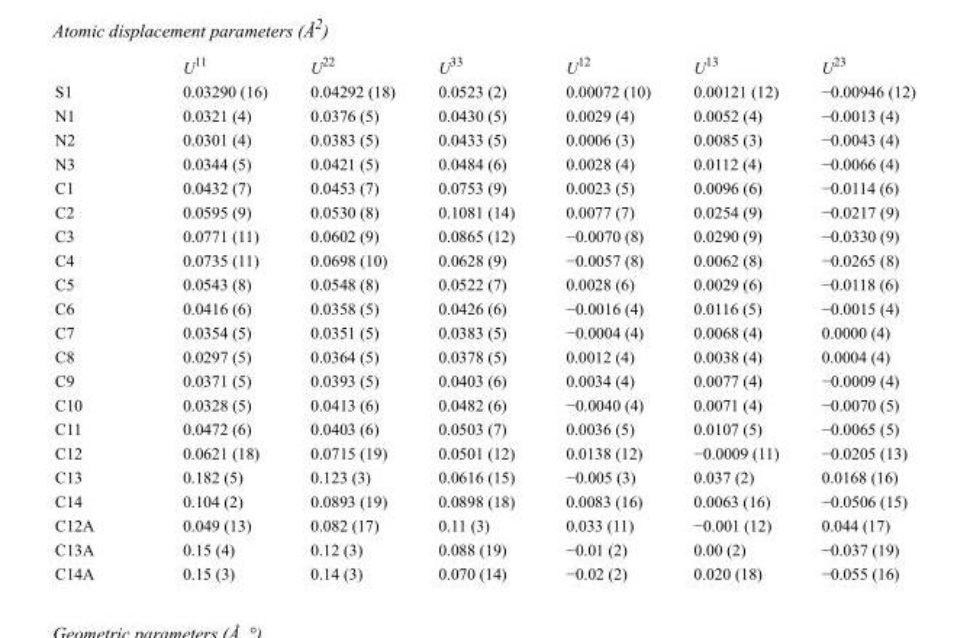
<table><thead><tr><td></td><td>U<sup>11</sup></td><td>U<sup>22</sup></td><td>U<sup>33</sup></td><td>U<sup>12</sup></td><td>U<sup>13</sup></td><td>U<sup>23</sup></td></tr></thead><tbody><tr><td>S1</td><td>0.03290 (16)</td><td>0.04292 (18)</td><td>0.0523 (2)</td><td>0.00072 (10)</td><td>0.00121 (12)</td><td>−0.00946 (12)</td></tr><tr><td>N1</td><td>0.0321 (4)</td><td>0.0376 (5)</td><td>0.0430 (5)</td><td>0.0029 (4)</td><td>0.0052 (4)</td><td>−0.0013 (4)</td></tr><tr><td>N2</td><td>0.0301 (4)</td><td>0.0383 (5)</td><td>0.0433 (5)</td><td>0.0006 (3)</td><td>0.0085 (3)</td><td>−0.0043 (4)</td></tr><tr><td>N3</td><td>0.0344 (5)</td><td>0.0421 (5)</td><td>0.0484 (6)</td><td>0.0028 (4)</td><td>0.0112 (4)</td><td>−0.0066 (4)</td></tr><tr><td>C1</td><td>0.0432 (7)</td><td>0.0453 (7)</td><td>0.0753 (9)</td><td>0.0023 (5)</td><td>0.0096 (6)</td><td>−0.0114 (6)</td></tr><tr><td>C2</td><td>0.0595 (9)</td><td>0.0530 (8)</td><td>0.1081 (14)</td><td>0.0077 (7)</td><td>0.0254 (9)</td><td>−0.0217 (9)</td></tr><tr><td>C3</td><td>0.0771 (11)</td><td>0.0602 (9)</td><td>0.0865 (12)</td><td>−0.0070 (8)</td><td>0.0290 (9)</td><td>−0.0330 (9)</td></tr><tr><td>C4</td><td>0.0735 (11)</td><td>0.0698 (10)</td><td>0.0628 (9)</td><td>−0.0057 (8)</td><td>0.0062 (8)</td><td>−0.0265 (8)</td></tr><tr><td>C5</td><td>0.0543 (8)</td><td>0.0548 (8)</td><td>0.0522 (7)</td><td>0.0028 (6)</td><td>0.0029 (6)</td><td>−0.0118 (6)</td></tr><tr><td>C6</td><td>0.0416 (6)</td><td>0.0358 (5)</td><td>0.0426 (6)</td><td>−0.0016 (4)</td><td>0.0116 (5)</td><td>−0.0015 (4)</td></tr><tr><td>C7</td><td>0.0354 (5)</td><td>0.0351 (5)</td><td>0.0383 (5)</td><td>−0.0004 (4)</td><td>0.0068 (4)</td><td>0.0000 (4)</td></tr><tr><td>C8</td><td>0.0297 (5)</td><td>0.0364 (5)</td><td>0.0378 (5)</td><td>0.0012 (4)</td><td>0.0038 (4)</td><td>0.0004 (4)</td></tr><tr><td>C9</td><td>0.0371 (5)</td><td>0.0393 (5)</td><td>0.0403 (6)</td><td>0.0034 (4)</td><td>0.0077 (4)</td><td>−0.0009 (4)</td></tr><tr><td>C10</td><td>0.0328 (5)</td><td>0.0413 (6)</td><td>0.0482 (6)</td><td>−0.0040 (4)</td><td>0.0071 (4)</td><td>−0.0070 (5)</td></tr><tr><td>C11</td><td>0.0472 (6)</td><td>0.0403 (6)</td><td>0.0503 (7)</td><td>0.0036 (5)</td><td>0.0107 (5)</td><td>−0.0065 (5)</td></tr><tr><td>C12</td><td>0.0621 (18)</td><td>0.0715 (19)</td><td>0.0501 (12)</td><td>0.0138 (12)</td><td>−0.0009 (11)</td><td>−0.0205 (13)</td></tr><tr><td>C13</td><td>0.182 (5)</td><td>0.123 (3)</td><td>0.0616 (15)</td><td>−0.005 (3)</td><td>0.037 (2)</td><td>0.0168 (16)</td></tr><tr><td>C14</td><td>0.104 (2)</td><td>0.0893 (19)</td><td>0.0898 (18)</td><td>0.0083 (16)</td><td>0.0063 (16)</td><td>−0.0506 (15)</td></tr><tr><td>C12A</td><td>0.049 (13)</td><td>0.082 (17)</td><td>0.11 (3)</td><td>0.033 (11)</td><td>−0.001 (12)</td><td>0.044 (17)</td></tr><tr><td>C13A</td><td>0.15 (4)</td><td>0.12 (3)</td><td>0.088 (19)</td><td>−0.01 (2)</td><td>0.00 (2)</td><td>−0.037 (19)</td></tr><tr><td>C14A</td><td>0.15 (3)</td><td>0.14 (3)</td><td>0.070 (14)</td><td>−0.02 (2)</td><td>0.020 (18)</td><td>−0.055 (16)</td></tr></tbody></table>